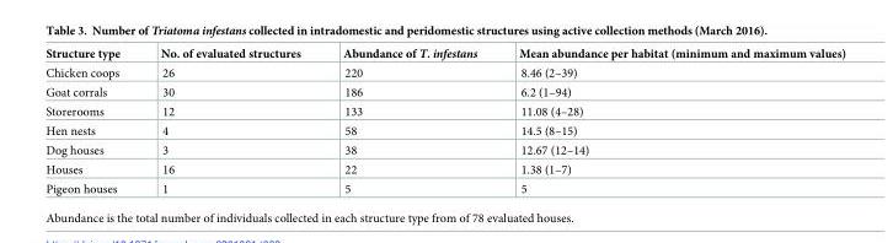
<table><thead><tr><td>Structure type</td><td>No. of evaluated structures</td><td>Abundance of T. infestans</td><td>Mean abundance per habitat (minimum and maximum values)</td></tr></thead><tbody><tr><td>Chicken coops</td><td>26</td><td>220</td><td>8.46 (2–39)</td></tr><tr><td>Goat corrals</td><td>30</td><td>186</td><td>6.2 (1–94)</td></tr><tr><td>Storerooms</td><td>12</td><td>133</td><td>11.08 (4–28)</td></tr><tr><td>Hen nests</td><td>4</td><td>58</td><td>14.5 (8–15)</td></tr><tr><td>Dog houses</td><td>3</td><td>38</td><td>12.67 (12–14)</td></tr><tr><td>Houses</td><td>16</td><td>22</td><td>1.38 (1–7)</td></tr><tr><td>Pigeon houses</td><td>1</td><td>5</td><td>5</td></tr></tbody></table>